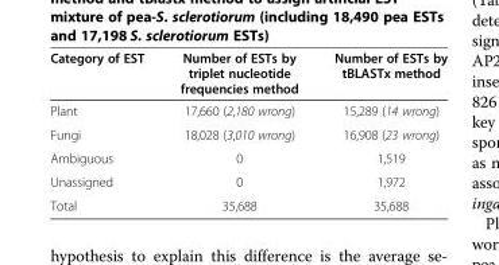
<table><thead><tr><td>Category of EST</td><td>Number of ESTs by triplet nucleotide frequencies method</td><td>Number of ESTs by tBLASTx method</td></tr></thead><tbody><tr><td>Plant</td><td>17,660 (2,180 wrong)</td><td>15,289 (14 wrong)</td></tr><tr><td>Fungi</td><td>18,028 (3,010 wrong)</td><td>16,908 (23 wrong)</td></tr><tr><td>Ambiguous</td><td>0</td><td>1,519</td></tr><tr><td>Unassigned</td><td>0</td><td>1,972</td></tr><tr><td>Total</td><td>35,688</td><td>35,688</td></tr></tbody></table>